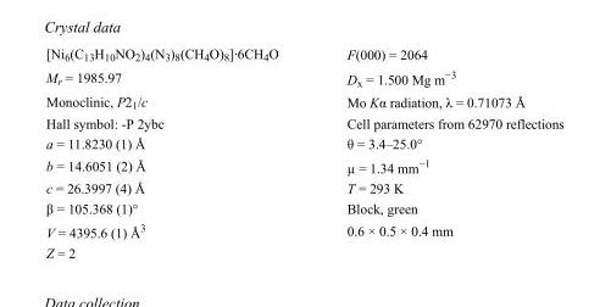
<table><tbody><tr><td>[Ni<sub>6</sub>(C<sub>13</sub>H<sub>10</sub>NO<sub>2</sub>)<sub>4</sub>(N<sub>3</sub>)<sub>8</sub>(CH<sub>4</sub>O)<sub>8</sub>]·6CH<sub>4</sub>O</td><td>F(000) = 2064</td></tr><tr><td>M<sub>r</sub> = 1985.97</td><td>D<sub>x</sub> = 1.500 Mg m<sup>−3</sup></td></tr><tr><td>Monoclinic, P2<sub>1</sub>/c</td><td>Mo Kα radiation, λ = 0.71073 Å</td></tr><tr><td>Hall symbol: -P 2ybc</td><td>Cell parameters from 62970 reflections</td></tr><tr><td>a = 11.8230 (1) Å</td><td>θ = 3.4–25.0°</td></tr><tr><td>b = 14.6051 (2) Å</td><td>µ = 1.34 mm<sup>−1</sup></td></tr><tr><td>c = 26.3997 (4) Å</td><td>T = 293 K</td></tr><tr><td>β = 105.368 (1)°</td><td>Block, green</td></tr><tr><td>V = 4395.6 (1) Å<sup>3</sup></td><td>0.6 × 0.5 × 0.4 mm</td></tr><tr><td>Z = 2</td><td></td></tr></tbody></table>